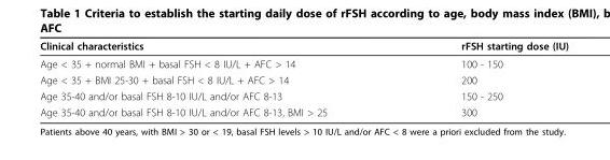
<table><thead><tr><td>Clinical characteristics</td><td>rFSH starting dose (IU)</td></tr></thead><tbody><tr><td>Age &lt; 35 + normal BMI + basal FSH &lt; 8 IU/L + AFC &gt; 14</td><td>100 - 150</td></tr><tr><td>Age &lt; 35 + BMI 25-30 + basal FSH &lt; 8 IU/L + AFC &gt; 14</td><td>200</td></tr><tr><td>Age 35-40 and/or basal FSH 8-10 IU/L and/or AFC 8-13</td><td>150 - 250</td></tr><tr><td>Age 35-40 and/or basal FSH 8-10 IU/L and/or AFC 8-13, BMI &gt; 25</td><td>300</td></tr></tbody></table>